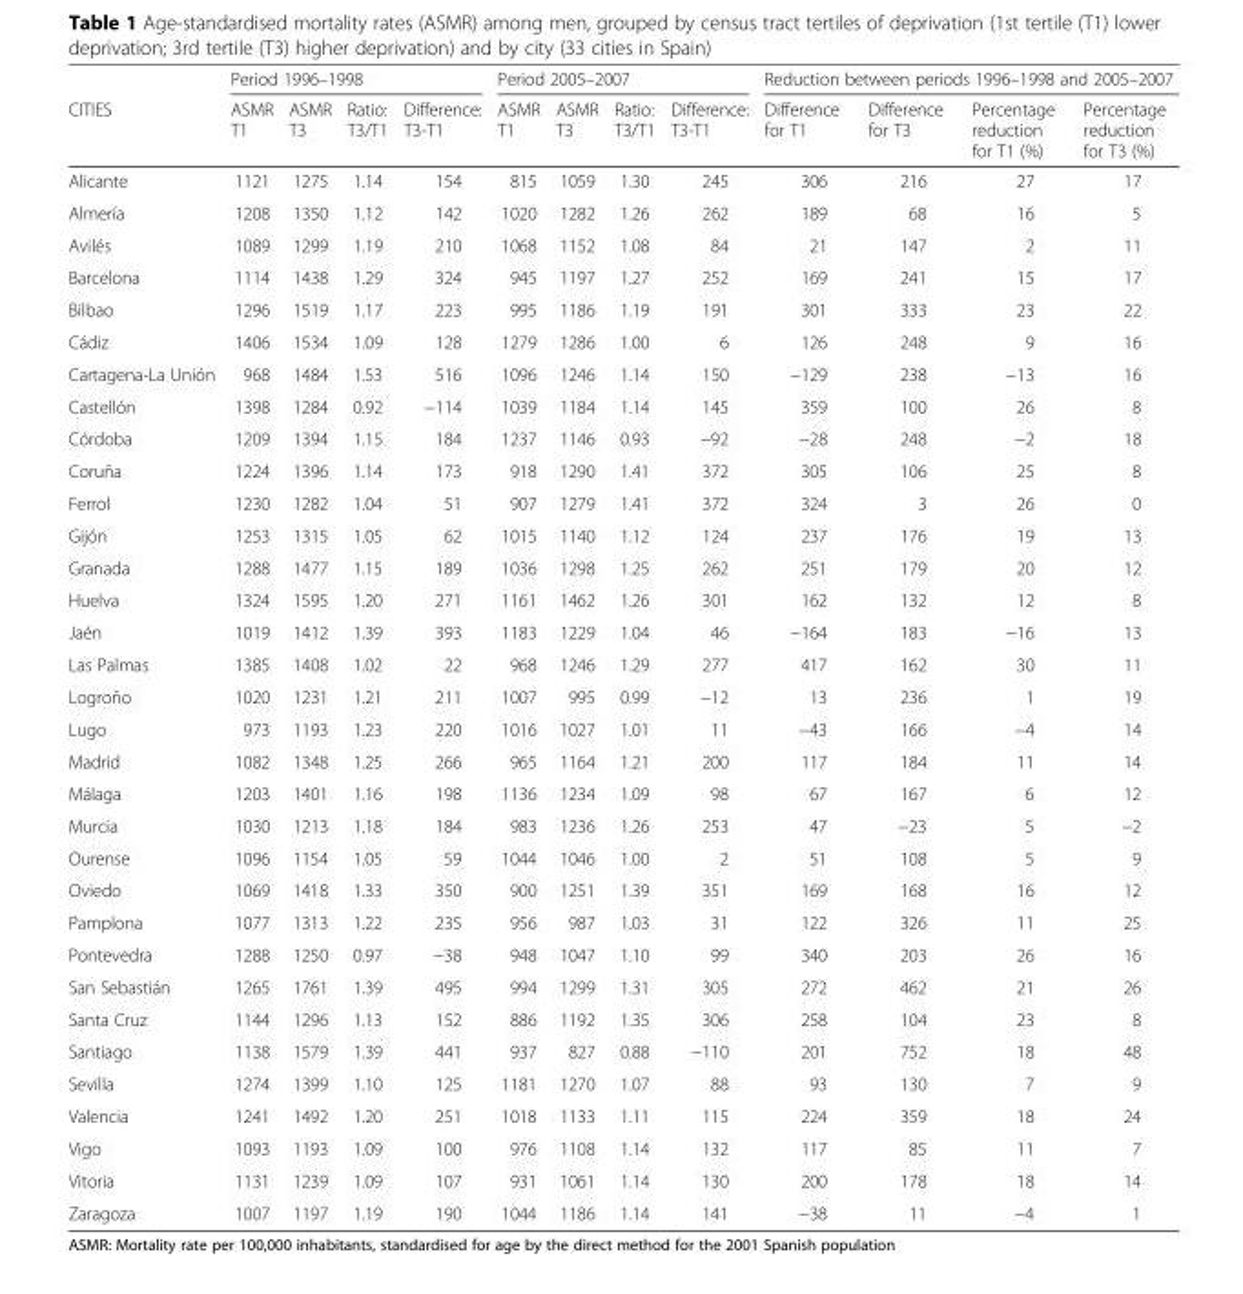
<table><thead><tr><td rowspan="2">CITIES</td><td colspan="4">Period 1996–1998</td><td colspan="4">Period 2005–2007</td><td colspan="4">Reduction between periods 1996–1998 and 2005–2007</td></tr><tr><td>ASMR T1</td><td>ASMR T3</td><td>Ratio: T3/T1</td><td>Difference: T3-T1</td><td>ASMR T1</td><td>ASMR T3</td><td>Ratio: T3/T1</td><td>Difference: T3-T1</td><td>Difference for T1</td><td>Difference for T3</td><td>Percentage reduction for T1 (%)</td><td>Percentage reduction for T3 (%)</td></tr></thead><tbody><tr><td>Alicante</td><td>1121</td><td>1275</td><td>1.14</td><td>154</td><td>815</td><td>1059</td><td>1.30</td><td>245</td><td>306</td><td>216</td><td>27</td><td>17</td></tr><tr><td>Almería</td><td>1208</td><td>1350</td><td>1.12</td><td>142</td><td>1020</td><td>1282</td><td>1.26</td><td>262</td><td>189</td><td>68</td><td>16</td><td>5</td></tr><tr><td>Avilés</td><td>1089</td><td>1299</td><td>1.19</td><td>210</td><td>1068</td><td>1152</td><td>1.08</td><td>84</td><td>21</td><td>147</td><td>2</td><td>11</td></tr><tr><td>Barcelona</td><td>1114</td><td>1438</td><td>1.29</td><td>324</td><td>945</td><td>1197</td><td>1.27</td><td>252</td><td>169</td><td>241</td><td>15</td><td>17</td></tr><tr><td>Bilbao</td><td>1296</td><td>1519</td><td>1.17</td><td>223</td><td>995</td><td>1186</td><td>1.19</td><td>191</td><td>301</td><td>333</td><td>23</td><td>22</td></tr><tr><td>Cádiz</td><td>1406</td><td>1534</td><td>1.09</td><td>128</td><td>1279</td><td>1286</td><td>1.00</td><td>6</td><td>126</td><td>248</td><td>9</td><td>16</td></tr><tr><td>Cartagena-La Unión</td><td>968</td><td>1484</td><td>1.53</td><td>516</td><td>1096</td><td>1246</td><td>1.14</td><td>150</td><td>−129</td><td>238</td><td>−13</td><td>16</td></tr><tr><td>Castellón</td><td>1398</td><td>1284</td><td>0.92</td><td>−114</td><td>1039</td><td>1184</td><td>1.14</td><td>145</td><td>359</td><td>100</td><td>26</td><td>8</td></tr><tr><td>Córdoba</td><td>1209</td><td>1394</td><td>1.15</td><td>184</td><td>1237</td><td>1146</td><td>0.93</td><td>−92</td><td>−28</td><td>248</td><td>−2</td><td>18</td></tr><tr><td>Coruña</td><td>1224</td><td>1396</td><td>1.14</td><td>173</td><td>918</td><td>1290</td><td>1.41</td><td>372</td><td>305</td><td>106</td><td>25</td><td>8</td></tr><tr><td>Ferrol</td><td>1230</td><td>1282</td><td>1.04</td><td>51</td><td>907</td><td>1279</td><td>1.41</td><td>372</td><td>324</td><td>3</td><td>26</td><td>0</td></tr><tr><td>Gijón</td><td>1253</td><td>1315</td><td>1.05</td><td>62</td><td>1015</td><td>1140</td><td>1.12</td><td>124</td><td>237</td><td>176</td><td>19</td><td>13</td></tr><tr><td>Granada</td><td>1288</td><td>1477</td><td>1.15</td><td>189</td><td>1036</td><td>1298</td><td>1.25</td><td>262</td><td>251</td><td>179</td><td>20</td><td>12</td></tr><tr><td>Huelva</td><td>1324</td><td>1595</td><td>1.20</td><td>271</td><td>1161</td><td>1462</td><td>1.26</td><td>301</td><td>162</td><td>132</td><td>12</td><td>8</td></tr><tr><td>Jaén</td><td>1019</td><td>1412</td><td>1.39</td><td>393</td><td>1183</td><td>1229</td><td>1.04</td><td>46</td><td>−164</td><td>183</td><td>−16</td><td>13</td></tr><tr><td>Las Palmas</td><td>1385</td><td>1408</td><td>1.02</td><td>22</td><td>968</td><td>1246</td><td>1.29</td><td>277</td><td>417</td><td>162</td><td>30</td><td>11</td></tr><tr><td>Logroño</td><td>1020</td><td>1231</td><td>1.21</td><td>211</td><td>1007</td><td>995</td><td>0.99</td><td>−12</td><td>13</td><td>236</td><td>1</td><td>19</td></tr><tr><td>Lugo</td><td>973</td><td>1193</td><td>1.23</td><td>220</td><td>1016</td><td>1027</td><td>1.01</td><td>11</td><td>−43</td><td>166</td><td>−4</td><td>14</td></tr><tr><td>Madrid</td><td>1082</td><td>1348</td><td>1.25</td><td>266</td><td>965</td><td>1164</td><td>1.21</td><td>200</td><td>117</td><td>184</td><td>11</td><td>14</td></tr><tr><td>Málaga</td><td>1203</td><td>1401</td><td>1.16</td><td>198</td><td>1136</td><td>1234</td><td>1.09</td><td>98</td><td>67</td><td>167</td><td>6</td><td>12</td></tr><tr><td>Murcia</td><td>1030</td><td>1213</td><td>1.18</td><td>184</td><td>983</td><td>1236</td><td>1.26</td><td>253</td><td>47</td><td>−23</td><td>5</td><td>−2</td></tr><tr><td>Ourense</td><td>1096</td><td>1154</td><td>1.05</td><td>59</td><td>1044</td><td>1046</td><td>1.00</td><td>2</td><td>51</td><td>108</td><td>5</td><td>9</td></tr><tr><td>Oviedo</td><td>1069</td><td>1418</td><td>1.33</td><td>350</td><td>900</td><td>1251</td><td>1.39</td><td>351</td><td>169</td><td>168</td><td>16</td><td>12</td></tr><tr><td>Pamplona</td><td>1077</td><td>1313</td><td>1.22</td><td>235</td><td>956</td><td>987</td><td>1.03</td><td>31</td><td>122</td><td>326</td><td>11</td><td>25</td></tr><tr><td>Pontevedra</td><td>1288</td><td>1250</td><td>0.97</td><td>−38</td><td>948</td><td>1047</td><td>1.10</td><td>99</td><td>340</td><td>203</td><td>26</td><td>16</td></tr><tr><td>San Sebastián</td><td>1265</td><td>1761</td><td>1.39</td><td>495</td><td>994</td><td>1299</td><td>1.31</td><td>305</td><td>272</td><td>462</td><td>21</td><td>26</td></tr><tr><td>Santa Cruz</td><td>1144</td><td>1296</td><td>1.13</td><td>152</td><td>886</td><td>1192</td><td>1.35</td><td>306</td><td>258</td><td>104</td><td>23</td><td>8</td></tr><tr><td>Santiago</td><td>1138</td><td>1579</td><td>1.39</td><td>441</td><td>937</td><td>827</td><td>0.88</td><td>−110</td><td>201</td><td>752</td><td>18</td><td>48</td></tr><tr><td>Sevilla</td><td>1274</td><td>1399</td><td>1.10</td><td>125</td><td>1181</td><td>1270</td><td>1.07</td><td>88</td><td>93</td><td>130</td><td>7</td><td>9</td></tr><tr><td>Valencia</td><td>1241</td><td>1492</td><td>1.20</td><td>251</td><td>1018</td><td>1133</td><td>1.11</td><td>115</td><td>224</td><td>359</td><td>18</td><td>24</td></tr><tr><td>Vigo</td><td>1093</td><td>1193</td><td>1.09</td><td>100</td><td>976</td><td>1108</td><td>1.14</td><td>132</td><td>117</td><td>85</td><td>11</td><td>7</td></tr><tr><td>Vitoria</td><td>1131</td><td>1239</td><td>1.09</td><td>107</td><td>931</td><td>1061</td><td>1.14</td><td>130</td><td>200</td><td>178</td><td>18</td><td>14</td></tr><tr><td>Zaragoza</td><td>1007</td><td>1197</td><td>1.19</td><td>190</td><td>1044</td><td>1186</td><td>1.14</td><td>141</td><td>−38</td><td>11</td><td>−4</td><td>1</td></tr></tbody></table>